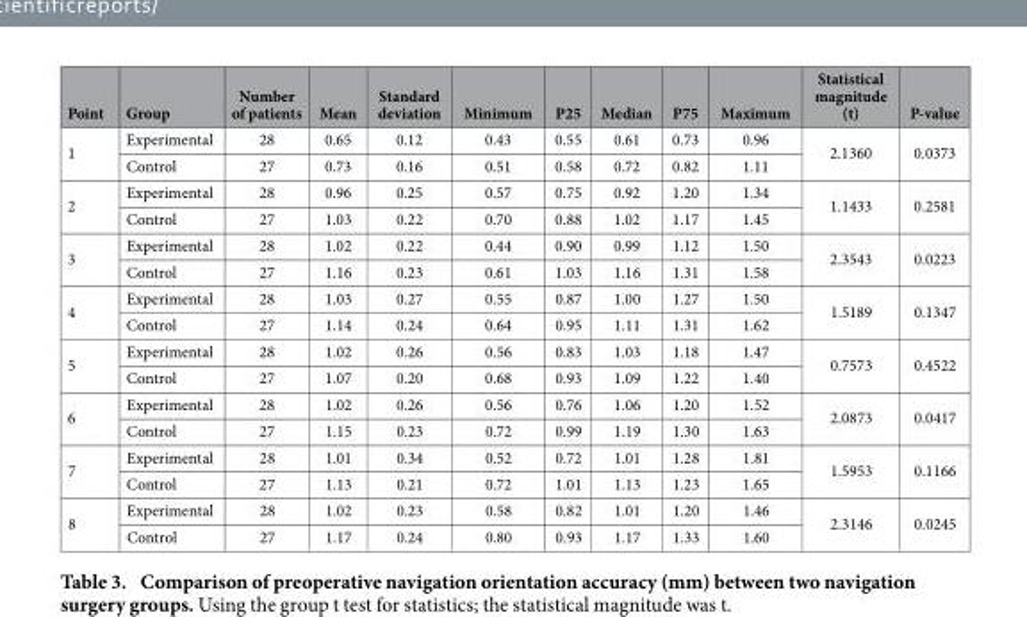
<table><thead><tr><td>Point</td><td>Group</td><td>Number of patients</td><td>Mean</td><td>Standard deviation</td><td>Minimum</td><td>P25</td><td>Median</td><td>P75</td><td>Maximum</td><td>Statistical magnitude (t)</td><td>P-value</td></tr></thead><tbody><tr><td rowspan="2">1</td><td>Experimental</td><td>28</td><td>0.65</td><td>0.12</td><td>0.43</td><td>0.55</td><td>0.61</td><td>0.73</td><td>0.96</td><td rowspan="2">2.1360</td><td rowspan="2">0.0373</td></tr><tr><td>Control</td><td>27</td><td>0.73</td><td>0.16</td><td>0.51</td><td>0.58</td><td>0.72</td><td>0.82</td><td>1.11</td></tr><tr><td rowspan="2">2</td><td>Experimental</td><td>28</td><td>0.96</td><td>0.25</td><td>0.57</td><td>0.75</td><td>0.92</td><td>1.20</td><td>1.34</td><td rowspan="2">1.1433</td><td rowspan="2">0.2581</td></tr><tr><td>Control</td><td>27</td><td>1.03</td><td>0.22</td><td>0.70</td><td>0.88</td><td>1.02</td><td>1.17</td><td>1.45</td></tr><tr><td rowspan="2">3</td><td>Experimental</td><td>28</td><td>1.02</td><td>0.22</td><td>0.44</td><td>0.90</td><td>0.99</td><td>1.12</td><td>1.50</td><td rowspan="2">2.3543</td><td rowspan="2">0.0223</td></tr><tr><td>Control</td><td>27</td><td>1.16</td><td>0.23</td><td>0.61</td><td>1.03</td><td>1.16</td><td>1.31</td><td>1.58</td></tr><tr><td rowspan="2">4</td><td>Experimental</td><td>28</td><td>1.03</td><td>0.27</td><td>0.55</td><td>0.87</td><td>1.00</td><td>1.27</td><td>1.50</td><td rowspan="2">1.5189</td><td rowspan="2">0.1347</td></tr><tr><td>Control</td><td>27</td><td>1.14</td><td>0.24</td><td>0.64</td><td>0.95</td><td>1.11</td><td>1.31</td><td>1.62</td></tr><tr><td rowspan="2">5</td><td>Experimental</td><td>28</td><td>1.02</td><td>0.26</td><td>0.56</td><td>0.83</td><td>1.03</td><td>1.18</td><td>1.47</td><td rowspan="2">0.7573</td><td rowspan="2">0.4522</td></tr><tr><td>Control</td><td>27</td><td>1.07</td><td>0.20</td><td>0.68</td><td>0.93</td><td>1.09</td><td>1.22</td><td>1.40</td></tr><tr><td rowspan="2">6</td><td>Experimental</td><td>28</td><td>1.02</td><td>0.26</td><td>0.56</td><td>0.76</td><td>1.06</td><td>1.20</td><td>1.52</td><td rowspan="2">2.0873</td><td rowspan="2">0.0417</td></tr><tr><td>Control</td><td>27</td><td>1.15</td><td>0.23</td><td>0.72</td><td>0.99</td><td>1.19</td><td>1.30</td><td>1.63</td></tr><tr><td rowspan="2">7</td><td>Experimental</td><td>28</td><td>1.01</td><td>0.34</td><td>0.52</td><td>0.72</td><td>1.01</td><td>1.28</td><td>1.81</td><td rowspan="2">1.5953</td><td rowspan="2">0.1166</td></tr><tr><td>Control</td><td>27</td><td>1.13</td><td>0.21</td><td>0.72</td><td>1.01</td><td>1.13</td><td>1.23</td><td>1.65</td></tr><tr><td rowspan="2">8</td><td>Experimental</td><td>28</td><td>1.02</td><td>0.23</td><td>0.58</td><td>0.82</td><td>1.01</td><td>1.20</td><td>1.46</td><td rowspan="2">2.3146</td><td rowspan="2">0.0245</td></tr><tr><td>Control</td><td>27</td><td>1.17</td><td>0.24</td><td>0.80</td><td>0.93</td><td>1.17</td><td>1.33</td><td>1.60</td></tr></tbody></table>